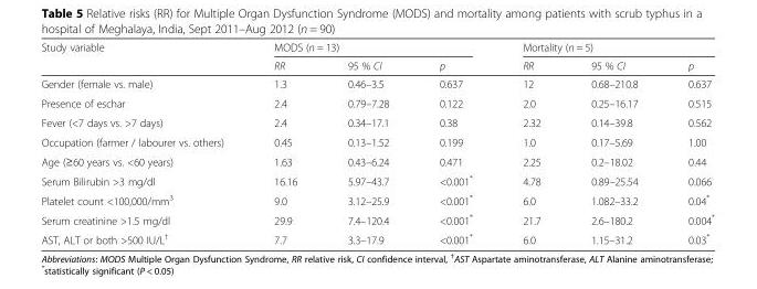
<table><thead><tr><td rowspan="2">Study variable</td><td colspan="3">MODS (n = 13)</td><td colspan="3">Mortality (n = 5)</td></tr><tr><td>RR</td><td>95 % CI</td><td>p</td><td>RR</td><td>95 % CI</td><td>p</td></tr></thead><tbody><tr><td>Gender (female vs. male)</td><td>1.3</td><td>0.46–3.5</td><td>0.637</td><td>12</td><td>0.68–210.8</td><td>0.637</td></tr><tr><td>Presence of eschar</td><td>2.4</td><td>0.79–7.28</td><td>0.122</td><td>2.0</td><td>0.25–16.17</td><td>0.515</td></tr><tr><td>Fever (&lt;7 days vs. &gt;7 days)</td><td>2.4</td><td>0.34–17.1</td><td>0.38</td><td>2.32</td><td>0.14–39.8</td><td>0.562</td></tr><tr><td>Occupation (farmer / labourer vs. others)</td><td>0.45</td><td>0.13–1.52</td><td>0.199</td><td>1.0</td><td>0.17–5.69</td><td>1.00</td></tr><tr><td>Age (≥60 years vs. &lt;60 years)</td><td>1.63</td><td>0.43–6.24</td><td>0.471</td><td>2.25</td><td>0.2–18.02</td><td>0.44</td></tr><tr><td>Serum Bilirubin &gt;3 mg/dl</td><td>16.16</td><td>5.97–43.7</td><td>&lt;0.001*</td><td>4.78</td><td>0.89–25.54</td><td>0.066</td></tr><tr><td>Platelet count &lt;100,000/mm<sup>3</sup></td><td>9.0</td><td>3.12–25.9</td><td>&lt;0.001*</td><td>6.0</td><td>1.082–33.2</td><td>0.04*</td></tr><tr><td>Serum creatinine &gt;1.5 mg/dl</td><td>29.9</td><td>7.4–120.4</td><td>&lt;0.001*</td><td>21.7</td><td>2.6–180.2</td><td>0.004*</td></tr><tr><td>AST, ALT or both &gt;500 IU/L<sup>†</sup></td><td>7.7</td><td>3.3–17.9</td><td>&lt;0.001*</td><td>6.0</td><td>1.15–31.2</td><td>0.03*</td></tr></tbody></table>